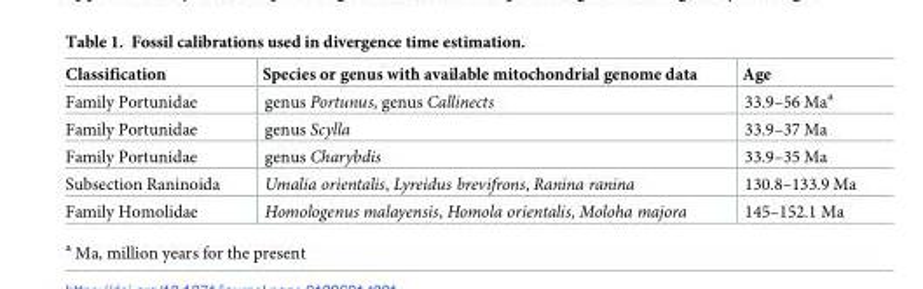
<table><thead><tr><td>Classification</td><td>Species or genus with available mitochondrial genome data</td><td>Age</td></tr></thead><tbody><tr><td>Family Portunidae</td><td>genus Portunus, genus Callinects</td><td>33.9–56 Ma<sup>a</sup></td></tr><tr><td>Family Portunidae</td><td>genus Scylla</td><td>33.9–37 Ma</td></tr><tr><td>Family Portunidae</td><td>genus Charybdis</td><td>33.9–35 Ma</td></tr><tr><td>Subsection Raninoida</td><td>Umalia orientalis, Lyreidus brevifrons, Ranina ranina</td><td>130.8–133.9 Ma</td></tr><tr><td>Family Homolidae</td><td>Homologenus malayensis, Homola orientalis, Moloha majora</td><td>145–152.1 Ma</td></tr></tbody></table>